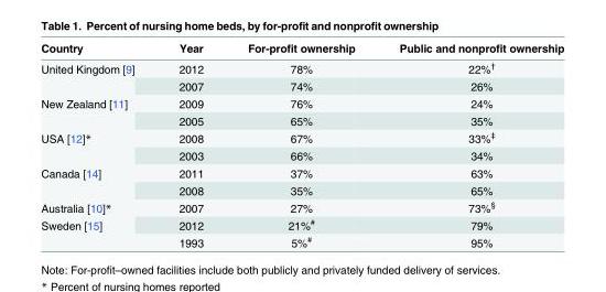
<table><thead><tr><td>Country</td><td>Year</td><td>For-profit ownership</td><td>Public and nonprofit ownership</td></tr></thead><tbody><tr><td rowspan="2">United Kingdom [9]</td><td>2012</td><td>78%</td><td>22%<sup>†</sup></td></tr><tr><td>2007</td><td>74%</td><td>26%</td></tr><tr><td rowspan="2">New Zealand [11]</td><td>2009</td><td>76%</td><td>24%</td></tr><tr><td>2005</td><td>65%</td><td>35%</td></tr><tr><td rowspan="2">USA [12]*</td><td>2008</td><td>67%</td><td>33%<sup>‡</sup></td></tr><tr><td>2003</td><td>66%</td><td>34%</td></tr><tr><td rowspan="2">Canada [14]</td><td>2011</td><td>37%</td><td>63%</td></tr><tr><td>2008</td><td>35%</td><td>65%</td></tr><tr><td>Australia [10]*</td><td>2007</td><td>27%</td><td>73%<sup>§</sup></td></tr><tr><td rowspan="2">Sweden [15]</td><td>2012</td><td>21%<sup>#</sup></td><td>79%</td></tr><tr><td>1993</td><td>5%<sup>#</sup></td><td>95%</td></tr></tbody></table>